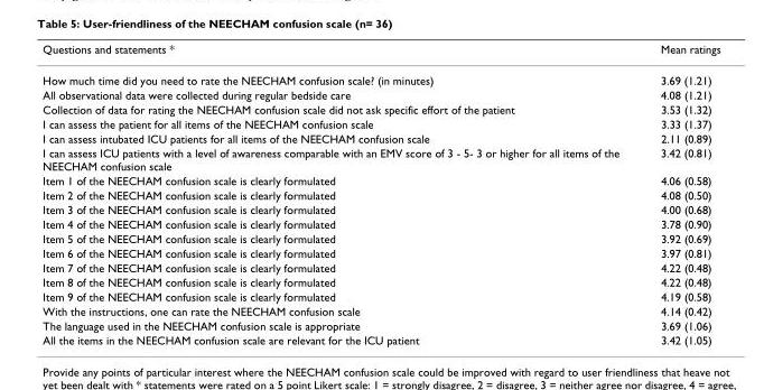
<table><thead><tr><td>Questions and statements *</td><td>Mean ratings</td></tr></thead><tbody><tr><td>How much time did you need to rate the NEECHAM confusion scale? (in minutes)</td><td>3.69 (1.21)</td></tr><tr><td>All observational data were collected during regular bedside care</td><td>4.08 (1.21)</td></tr><tr><td>Collection of data for rating the NEECHAM confusion scale did not ask specific effort of the patient</td><td>3.53 (1.32)</td></tr><tr><td>I can assess the patient for all items of the NEECHAM confusion scale</td><td>3.33 (1.37)</td></tr><tr><td>I can assess intubated ICU patients for all items of the NEECHAM confusion scale</td><td>2.11 (0.89)</td></tr><tr><td>I can assess ICU patients with a level of awareness comparable with an EMV score of 3 - 5- 3 or higher for all items of the NEECHAM confusion scale</td><td>3.42 (0.81)</td></tr><tr><td>Item 1 of the NEECHAM confusion scale is clearly formulated</td><td>4.06 (0.58)</td></tr><tr><td>Item 2 of the NEECHAM confusion scale is clearly formulated</td><td>4.08 (0.50)</td></tr><tr><td>Item 3 of the NEECHAM confusion scale is clearly formulated</td><td>4.00 (0.68)</td></tr><tr><td>Item 4 of the NEECHAM confusion scale is clearly formulated</td><td>3.78 (0.90)</td></tr><tr><td>Item 5 of the NEECHAM confusion scale is clearly formulated</td><td>3.92 (0.69)</td></tr><tr><td>Item 6 of the NEECHAM confusion scale is clearly formulated</td><td>3.97 (0.81)</td></tr><tr><td>Item 7 of the NEECHAM confusion scale is clearly formulated</td><td>4.22 (0.48)</td></tr><tr><td>Item 8 of the NEECHAM confusion scale is clearly formulated</td><td>4.22 (0.48)</td></tr><tr><td>Item 9 of the NEECHAM confusion scale is clearly formulated</td><td>4.19 (0.58)</td></tr><tr><td>With the instructions, one can rate the NEECHAM confusion scale</td><td>4.14 (0.42)</td></tr><tr><td>The language used in the NEECHAM confusion scale is appropriate</td><td>3.69 (1.06)</td></tr><tr><td>All the items in the NEECHAM confusion scale are relevant for the ICU patient</td><td>3.42 (1.05)</td></tr></tbody></table>